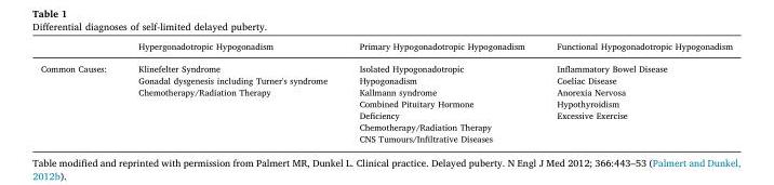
<table><thead><tr><td></td><td>Hypergonadotropic Hypogonadism</td><td>Primary Hypogonadotropic Hypogonadism</td><td>Functional Hypogonadotropic Hypogonadism</td></tr></thead><tbody><tr><td rowspan="7">Common Causes:</td><td>Klinefelter Syndrome</td><td>Isolated Hypogonadotropic</td><td>Inflammatory Bowel Disease</td></tr><tr><td>Gonadal dysgenesis including Turner&#x27;s syndrome</td><td>Hypogonadism</td><td>Coeliac Disease</td></tr><tr><td>Chemotherapy/Radiation Therapy</td><td>Kallmann syndrome</td><td>Anorexia Nervosa</td></tr><tr><td></td><td>Combined Pituitary Hormone</td><td>Hypothyroidism</td></tr><tr><td></td><td>Deficiency</td><td>Excessive Exercise</td></tr><tr><td></td><td>Chemotherapy/Radiation Therapy</td><td></td></tr><tr><td></td><td>CNS Tumours/Infiltrative Diseases</td><td></td></tr></tbody></table>